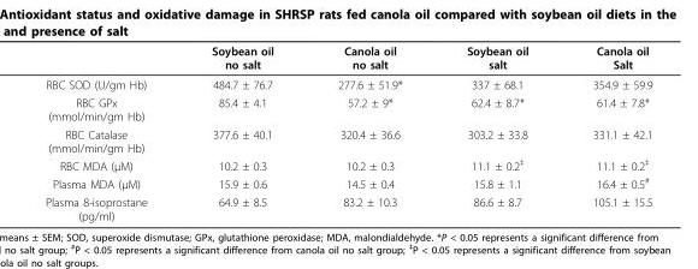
<table><thead><tr><td></td><td>Soybean oil no salt</td><td>Canola oil no salt</td><td>Soybean oil salt</td><td>Canola oil Salt</td></tr></thead><tbody><tr><td>RBC SOD (U/gm Hb)</td><td>484.7 ± 76.7</td><td>277.6 ± 51.9*</td><td>337 ± 68.1</td><td>354.9 ± 59.9</td></tr><tr><td>RBC GPx (mmol/min/gm Hb)</td><td>85.4 ± 4.1</td><td>57.2 ± 9*</td><td>62.4 ± 8.7*</td><td>61.4 ± 7.8*</td></tr><tr><td>RBC Catalase (mmol/min/gm Hb)</td><td>377.6 ± 40.1</td><td>320.4 ± 36.6</td><td>303.2 ± 33.8</td><td>331.1 ± 42.1</td></tr><tr><td>RBC MDA (μM)</td><td>10.2 ± 0.3</td><td>10.2 ± 0.3</td><td>11.1 ± 0.2<sup>‡</sup></td><td>11.1 ± 0.2<sup>‡</sup></td></tr><tr><td>Plasma MDA (μM)</td><td>15.9 ± 0.6</td><td>14.5 ± 0.4</td><td>15.8 ± 1.1</td><td>16.4 ± 0.5<sup>#</sup></td></tr><tr><td>Plasma 8-isoprostane (pg/ml)</td><td>64.9 ± 8.5</td><td>83.2 ± 10.3</td><td>86.6 ± 8.7</td><td>105.1 ± 15.5</td></tr></tbody></table>